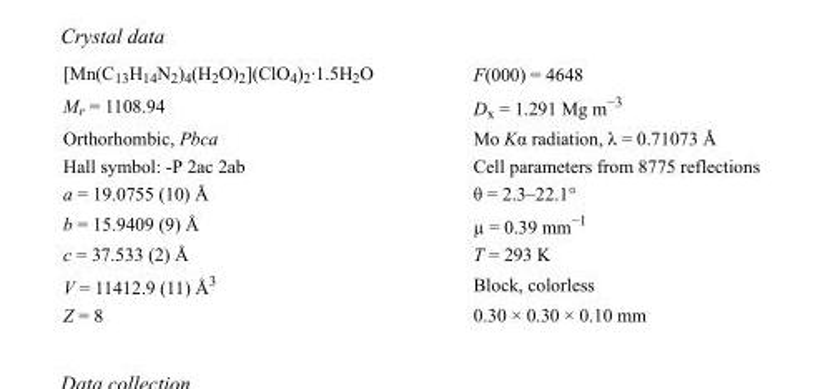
<table><tbody><tr><td>[Mn(C<sub>13</sub>H<sub>14</sub>N<sub>2</sub>)<sub>4</sub>(H<sub>2</sub>O)<sub>2</sub>](ClO<sub>4</sub>)<sub>2</sub>·1.5H<sub>2</sub>O</td><td>F(000) = 4648</td></tr><tr><td>M<sub>r</sub> = 1108.94</td><td>D<sub>x</sub> = 1.291 Mg m<sup>−3</sup></td></tr><tr><td>Orthorhombic, Pbca</td><td>Mo Kα radiation, λ = 0.71073 Å</td></tr><tr><td>Hall symbol: -P 2ac 2ab</td><td>Cell parameters from 8775 reflections</td></tr><tr><td>a = 19.0755 (10) Å</td><td>θ = 2.3–22.1°</td></tr><tr><td>b = 15.9409 (9) Å</td><td>µ = 0.39 mm<sup>−1</sup></td></tr><tr><td>c = 37.533 (2) Å</td><td>T = 293 K</td></tr><tr><td>V = 11412.9 (11) Å<sup>3</sup></td><td>Block, colorless</td></tr><tr><td>Z = 8</td><td>0.30 × 0.30 × 0.10 mm</td></tr></tbody></table>